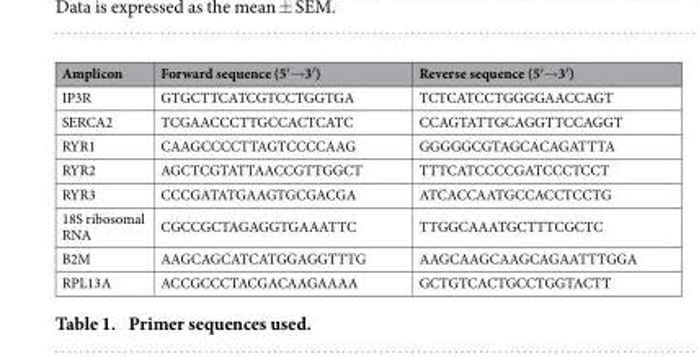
<table><thead><tr><td>Amplicon</td><td>Forward sequence (5′ → 3′ )</td><td>Reverse sequence (5′ → 3′ )</td></tr></thead><tbody><tr><td>IP3R</td><td>GTGCTTCATCGTCCTGGTGA</td><td>TCTCATCCTGGGGAACCAGT</td></tr><tr><td>SERCA2</td><td>TCGAACCCTTGCCACTCATC</td><td>CCAGTATTGCAGGTTCCAGGT</td></tr><tr><td>RYR1</td><td>CAAGCCCCTTAGTCCCCAAG</td><td>GGGGGCGTAGCACAGATTTA</td></tr><tr><td>RYR2</td><td>AGCTCGTATTAACCGTTGGCT</td><td>TTTCATCCCCGATCCCTCCT</td></tr><tr><td>RYR3</td><td>CCCGATATGAAGTGCGACGA</td><td>ATCACCAATGCCACCTCCTG</td></tr><tr><td>18S ribosomal RNA</td><td>CGCCGCTAGAGGTGAAATTC</td><td>TTGGCAAATGCTTTCGCTC</td></tr><tr><td>B2M</td><td>AAGCAGCATCATGGAGGTTTG</td><td>AAGCAAGCAAGCAGAATTTGGA</td></tr><tr><td>RPL13A</td><td>ACCGCCCTACGACAAGAAAA</td><td>GCTGTCACTGCCTGGTACTT</td></tr></tbody></table>